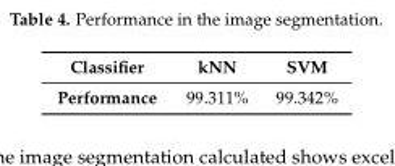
<table><thead><tr><td>Classifier</td><td>kNN</td><td>SVM</td></tr></thead><tbody><tr><td>Performance</td><td>99.311%</td><td>99.342%</td></tr></tbody></table>